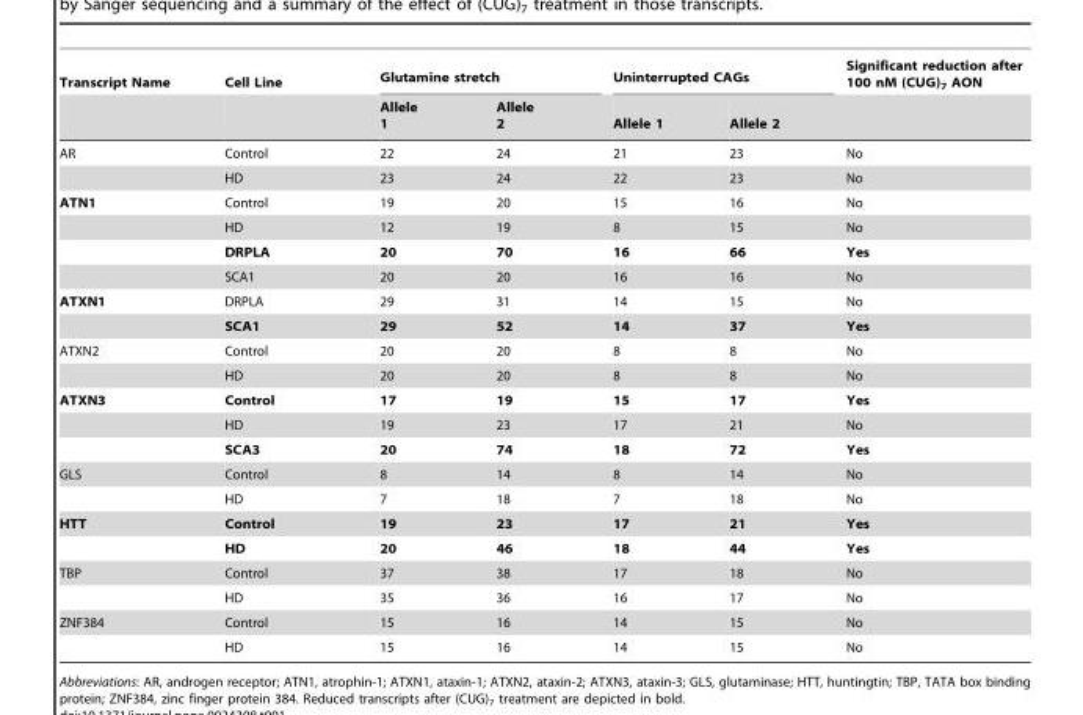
<table><thead><tr><td rowspan="2">Transcript Name</td><td rowspan="2">Cell Line</td><td colspan="2">Glutamine stretch</td><td colspan="2">Uninterrupted CAGs</td><td rowspan="2">Significant reduction after 100 nM (CUG)<sub>7</sub> AON</td></tr><tr><td>Allele 1</td><td>Allele 2</td><td>Allele 1</td><td>Allele 2</td></tr></thead><tbody><tr><td rowspan="2">AR</td><td>Control</td><td>22</td><td>24</td><td>21</td><td>23</td><td>No</td></tr><tr><td>HD</td><td>23</td><td>24</td><td>22</td><td>23</td><td>No</td></tr><tr><td rowspan="4">ATN1</td><td>Control</td><td>19</td><td>20</td><td>15</td><td>16</td><td>No</td></tr><tr><td>HD</td><td>12</td><td>19</td><td>8</td><td>15</td><td>No</td></tr><tr><td>DRPLA</td><td>20</td><td>70</td><td>16</td><td>66</td><td>Yes</td></tr><tr><td>SCA1</td><td>20</td><td>20</td><td>16</td><td>16</td><td>No</td></tr><tr><td rowspan="2">ATXN1</td><td>DRPLA</td><td>29</td><td>31</td><td>14</td><td>15</td><td>No</td></tr><tr><td>SCA1</td><td>29</td><td>52</td><td>14</td><td>37</td><td>Yes</td></tr><tr><td rowspan="2">ATXN2</td><td>Control</td><td>20</td><td>20</td><td>8</td><td>8</td><td>No</td></tr><tr><td>HD</td><td>20</td><td>20</td><td>8</td><td>8</td><td>No</td></tr><tr><td rowspan="3">ATXN3</td><td>Control</td><td>17</td><td>19</td><td>15</td><td>17</td><td>Yes</td></tr><tr><td>HD</td><td>19</td><td>23</td><td>17</td><td>21</td><td>No</td></tr><tr><td>SCA3</td><td>20</td><td>74</td><td>18</td><td>72</td><td>Yes</td></tr><tr><td rowspan="2">GLS</td><td>Control</td><td>8</td><td>14</td><td>8</td><td>14</td><td>No</td></tr><tr><td>HD</td><td>7</td><td>18</td><td>7</td><td>18</td><td>No</td></tr><tr><td rowspan="2">HTT</td><td>Control</td><td>19</td><td>23</td><td>17</td><td>21</td><td>Yes</td></tr><tr><td>HD</td><td>20</td><td>46</td><td>18</td><td>44</td><td>Yes</td></tr><tr><td rowspan="2">TBP</td><td>Control</td><td>37</td><td>38</td><td>17</td><td>18</td><td>No</td></tr><tr><td>HD</td><td>35</td><td>36</td><td>16</td><td>17</td><td>No</td></tr><tr><td rowspan="2">ZNF384</td><td>Control</td><td>15</td><td>16</td><td>14</td><td>15</td><td>No</td></tr><tr><td>HD</td><td>15</td><td>16</td><td>14</td><td>15</td><td>No</td></tr></tbody></table>